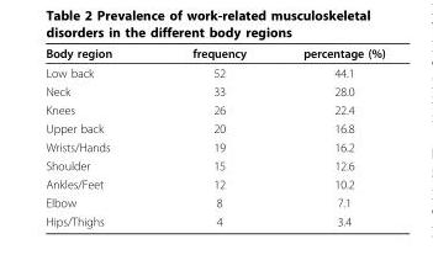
<table><thead><tr><td>Body region</td><td>frequency</td><td>percentage (%)</td></tr></thead><tbody><tr><td>Low back</td><td>52</td><td>44.1</td></tr><tr><td>Neck</td><td>33</td><td>28.0</td></tr><tr><td>Knees</td><td>26</td><td>22.4</td></tr><tr><td>Upper back</td><td>20</td><td>16.8</td></tr><tr><td>Wrists/Hands</td><td>19</td><td>16.2</td></tr><tr><td>Shoulder</td><td>15</td><td>12.6</td></tr><tr><td>Ankles/Feet</td><td>12</td><td>10.2</td></tr><tr><td>Elbow</td><td>8</td><td>7.1</td></tr><tr><td>Hips/Thighs</td><td>4</td><td>3.4</td></tr></tbody></table>